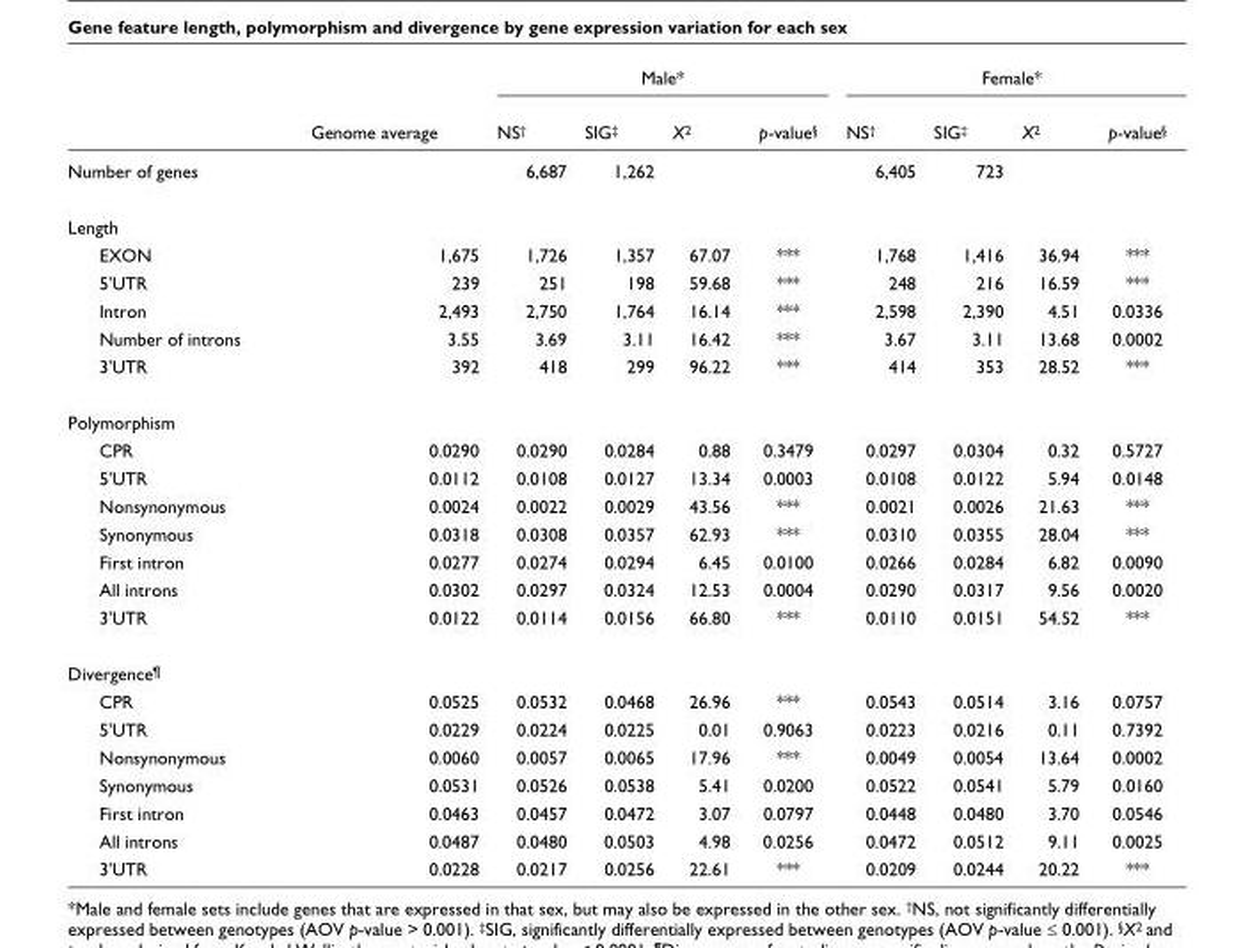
<table><thead><tr><td rowspan="2"></td><td rowspan="2">Genome average</td><td colspan="4">Male*</td><td colspan="4">Female*</td></tr><tr><td>NS<sup>†</sup></td><td>SIG<sup>‡</sup></td><td>X<sup>2</sup></td><td>p-value<sup>§</sup></td><td>NS<sup>†</sup></td><td>SIG<sup>‡</sup></td><td>X<sup>2</sup></td><td>p-value<sup>§</sup></td></tr></thead><tbody><tr><td>Number of genes</td><td></td><td>6,687</td><td>1,262</td><td></td><td></td><td>6,405</td><td>723</td><td></td><td></td></tr><tr><td colspan="10">Length</td></tr><tr><td>EXON</td><td>1,675</td><td>1,726</td><td>1,357</td><td>67.07</td><td>***</td><td>1,768</td><td>1,416</td><td>36.94</td><td>***</td></tr><tr><td>5&#x27;UTR</td><td>239</td><td>251</td><td>198</td><td>59.68</td><td>***</td><td>248</td><td>216</td><td>16.59</td><td>***</td></tr><tr><td>Intron</td><td>2,493</td><td>2,750</td><td>1,764</td><td>16.14</td><td>***</td><td>2,598</td><td>2,390</td><td>4.51</td><td>0.0336</td></tr><tr><td>Number of introns</td><td>3.55</td><td>3.69</td><td>3.11</td><td>16.42</td><td>***</td><td>3.67</td><td>3.11</td><td>13.68</td><td>0.0002</td></tr><tr><td>3&#x27;UTR</td><td>392</td><td>418</td><td>299</td><td>96.22</td><td>***</td><td>414</td><td>353</td><td>28.52</td><td>***</td></tr><tr><td colspan="10">Polymorphism</td></tr><tr><td>CPR</td><td>0.0290</td><td>0.0290</td><td>0.0284</td><td>0.88</td><td>0.3479</td><td>0.0297</td><td>0.0304</td><td>0.32</td><td>0.5727</td></tr><tr><td>5&#x27;UTR</td><td>0.0112</td><td>0.0108</td><td>0.0127</td><td>13.34</td><td>0.0003</td><td>0.0108</td><td>0.0122</td><td>5.94</td><td>0.0148</td></tr><tr><td>Nonsynonymous</td><td>0.0024</td><td>0.0022</td><td>0.0029</td><td>43.56</td><td>***</td><td>0.0021</td><td>0.0026</td><td>21.63</td><td>***</td></tr><tr><td>Synonymous</td><td>0.0318</td><td>0.0308</td><td>0.0357</td><td>62.93</td><td>***</td><td>0.0310</td><td>0.0355</td><td>28.04</td><td>***</td></tr><tr><td>First intron</td><td>0.0277</td><td>0.0274</td><td>0.0294</td><td>6.45</td><td>0.0100</td><td>0.0266</td><td>0.0284</td><td>6.82</td><td>0.0090</td></tr><tr><td>All introns</td><td>0.0302</td><td>0.0297</td><td>0.0324</td><td>12.53</td><td>0.0004</td><td>0.0290</td><td>0.0317</td><td>9.56</td><td>0.0020</td></tr><tr><td>3&#x27;UTR</td><td>0.0122</td><td>0.0114</td><td>0.0156</td><td>66.80</td><td>***</td><td>0.0110</td><td>0.0151</td><td>54.52</td><td>***</td></tr><tr><td colspan="10">Divergence<sup>¶</sup></td></tr><tr><td>CPR</td><td>0.0525</td><td>0.0532</td><td>0.0468</td><td>26.96</td><td>***</td><td>0.0543</td><td>0.0514</td><td>3.16</td><td>0.0757</td></tr><tr><td>5&#x27;UTR</td><td>0.0229</td><td>0.0224</td><td>0.0225</td><td>0.01</td><td>0.9063</td><td>0.0223</td><td>0.0216</td><td>0.11</td><td>0.7392</td></tr><tr><td>Nonsynonymous</td><td>0.0060</td><td>0.0057</td><td>0.0065</td><td>17.96</td><td>***</td><td>0.0049</td><td>0.0054</td><td>13.64</td><td>0.0002</td></tr><tr><td>Synonymous</td><td>0.0531</td><td>0.0526</td><td>0.0538</td><td>5.41</td><td>0.0200</td><td>0.0522</td><td>0.0541</td><td>5.79</td><td>0.0160</td></tr><tr><td>First intron</td><td>0.0463</td><td>0.0457</td><td>0.0472</td><td>3.07</td><td>0.0797</td><td>0.0448</td><td>0.0480</td><td>3.70</td><td>0.0546</td></tr><tr><td>All introns</td><td>0.0487</td><td>0.0480</td><td>0.0503</td><td>4.98</td><td>0.0256</td><td>0.0472</td><td>0.0512</td><td>9.11</td><td>0.0025</td></tr><tr><td>3&#x27;UTR</td><td>0.0228</td><td>0.0217</td><td>0.0256</td><td>22.61</td><td>***</td><td>0.0209</td><td>0.0244</td><td>20.22</td><td>***</td></tr></tbody></table>